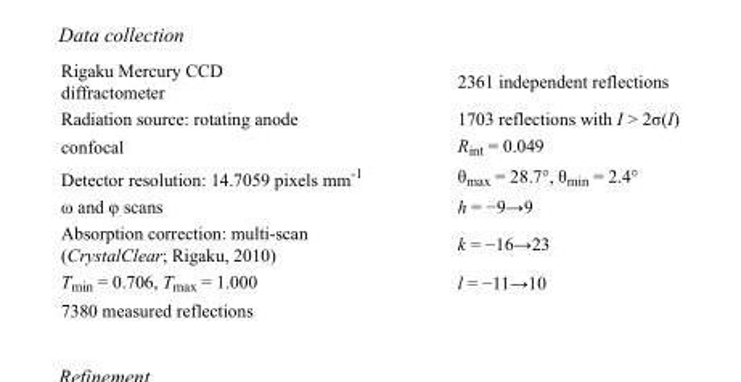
<table><tbody><tr><td>Rigaku Mercury CCD diffractometer</td><td>2361 independent reflections</td></tr><tr><td>Radiation source: rotating anode</td><td>1703 reflections with I &gt; 2σ(I)</td></tr><tr><td>confocal</td><td>R<sub>int</sub> = 0.049</td></tr><tr><td>Detector resolution: 14.7059 pixels mm<sup>-1</sup></td><td>θ<sub>max</sub> = 28.7°, θ<sub>min</sub> = 2.4°</td></tr><tr><td>ω and φ scans</td><td>h = −9→9</td></tr><tr><td>Absorption correction: multi-scan (CrystalClear; Rigaku, 2010)</td><td>k = −16→23</td></tr><tr><td>T<sub>min</sub> = 0.706, T<sub>max</sub> = 1.000</td><td>l = −11→10</td></tr><tr><td>7380 measured reflections</td><td></td></tr></tbody></table>